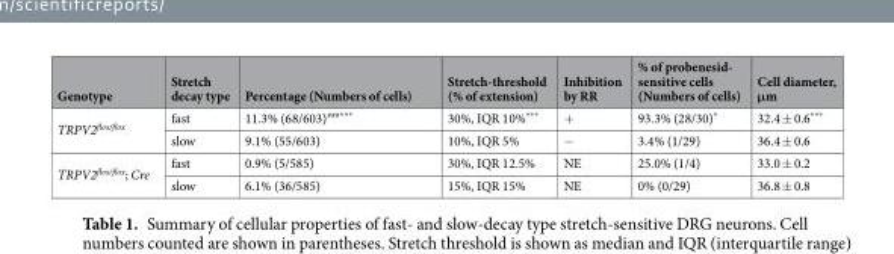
<table><thead><tr><td>Genotype</td><td>Stretch decay type</td><td>Percentage (Numbers of cells)</td><td>Stretch-threshold (% of extension)</td><td>Inhibition by RR</td><td>% of probenesid- sensitive cells (Numbers of cells)</td><td>Cell diameter, μm</td></tr></thead><tbody><tr><td rowspan="2">TRPV2<sup>flox/flox</sup></td><td>fast</td><td>11.3% (68/603)<sup>###</sup>***</td><td>30%, IQR 10%***</td><td>+</td><td>93.3% (28/30)*</td><td>32.4 ± 0.6***</td></tr><tr><td>slow</td><td>9.1% (55/603)</td><td>10%, IQR 5%</td><td>−</td><td>3.4% (1/29)</td><td>36.4 ± 0.6</td></tr><tr><td rowspan="2">TRPV2<sup>flox/flox</sup>; Cre</td><td>fast</td><td>0.9% (5/585)</td><td>30%, IQR 12.5%</td><td>NE</td><td>25.0% (1/4)</td><td>33.0 ± 0.2</td></tr><tr><td>slow</td><td>6.1% (36/585)</td><td>15%, IQR 15%</td><td>NE</td><td>0% (0/29)</td><td>36.8 ± 0.8</td></tr></tbody></table>